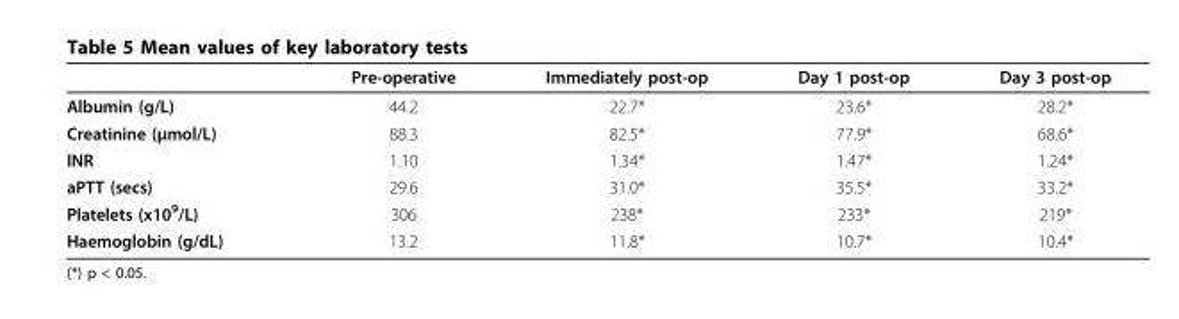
<table><thead><tr><td></td><td>Pre-operative</td><td>Immediately post-op</td><td>Day 1 post-op</td><td>Day 3 post-op</td></tr></thead><tbody><tr><td>Albumin (g/L)</td><td>44.2</td><td>22.7*</td><td>23.6*</td><td>28.2*</td></tr><tr><td>Creatinine (μmol/L)</td><td>88.3</td><td>82.5*</td><td>77.9*</td><td>68.6*</td></tr><tr><td>INR</td><td>1.10</td><td>1.34*</td><td>1.47*</td><td>1.24*</td></tr><tr><td>aPTT (secs)</td><td>29.6</td><td>31.0*</td><td>35.5*</td><td>33.2*</td></tr><tr><td>Platelets (x10<sup>9</sup>/L)</td><td>306</td><td>238*</td><td>233*</td><td>219*</td></tr><tr><td>Haemoglobin (g/dL)</td><td>13.2</td><td>11.8*</td><td>10.7*</td><td>10.4*</td></tr></tbody></table>